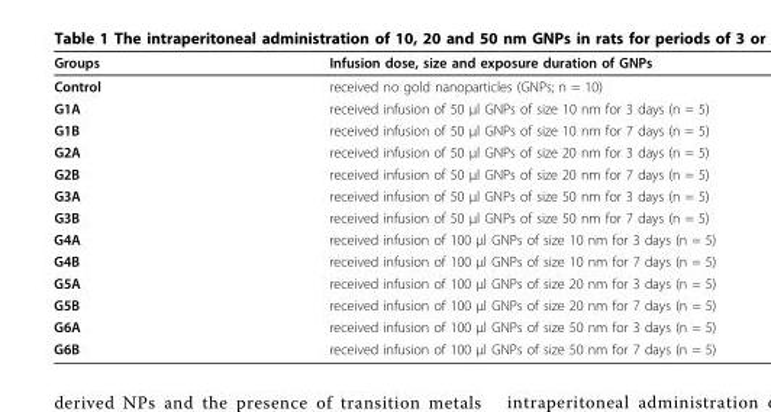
<table><thead><tr><td>Groups</td><td>Infusion dose, size and exposure duration of GNPs</td></tr></thead><tbody><tr><td>Control</td><td>received no gold nanoparticles (GNPs; n = 10)</td></tr><tr><td>G1A</td><td>received infusion of 50 μl GNPs of size 10 nm for 3 days (n = 5)</td></tr><tr><td>G1B</td><td>received infusion of 50 μl GNPs of size 10 nm for 7 days (n = 5)</td></tr><tr><td>G2A</td><td>received infusion of 50 μl GNPs of size 20 nm for 3 days (n = 5)</td></tr><tr><td>G2B</td><td>received infusion of 50 μl GNPs of size 20 nm for 7 days (n = 5)</td></tr><tr><td>G3A</td><td>received infusion of 50 μl GNPs of size 50 nm for 3 days (n = 5)</td></tr><tr><td>G3B</td><td>received infusion of 50 μl GNPs of size 50 nm for 7 days (n = 5)</td></tr><tr><td>G4A</td><td>received infusion of 100 μl GNPs of size 10 nm for 3 days (n = 5)</td></tr><tr><td>G4B</td><td>received infusion of 100 μl GNPs of size 10 nm for 7 days (n = 5)</td></tr><tr><td>G5A</td><td>received infusion of 100 μl GNPs of size 20 nm for 3 days (n = 5)</td></tr><tr><td>G5B</td><td>received infusion of 100 μl GNPs of size 20 nm for 7 days (n = 5)</td></tr><tr><td>G6A</td><td>received infusion of 100 μl GNPs of size 50 nm for 3 days (n = 5)</td></tr><tr><td>G6B</td><td>received infusion of 100 μl GNPs of size 50 nm for 7 days (n = 5)</td></tr></tbody></table>